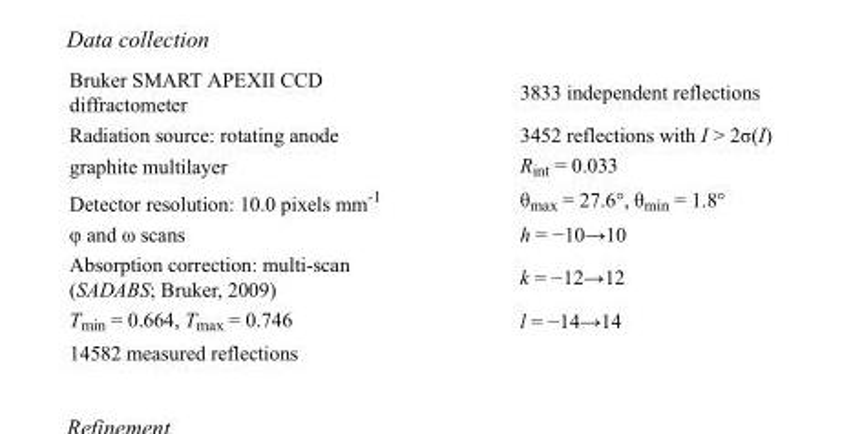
<table><tbody><tr><td>Bruker SMART APEXII CCD diffractometer</td><td>3833 independent reflections</td></tr><tr><td>Radiation source: rotating anode</td><td>3452 reflections with I &gt; 2σ(I)</td></tr><tr><td>graphite multilayer</td><td>R<sub>int</sub> = 0.033</td></tr><tr><td>Detector resolution: 10.0 pixels mm<sup>-1</sup></td><td>θ<sub>max</sub> = 27.6°, θ<sub>min</sub> = 1.8°</td></tr><tr><td>φ and ω scans</td><td>h = −10→10</td></tr><tr><td>Absorption correction: multi-scan (SADABS; Bruker, 2009)</td><td>k = −12→12</td></tr><tr><td>T<sub>min</sub> = 0.664, T<sub>max</sub> = 0.746</td><td>l = −14→14</td></tr><tr><td>14582 measured reflections</td><td></td></tr></tbody></table>